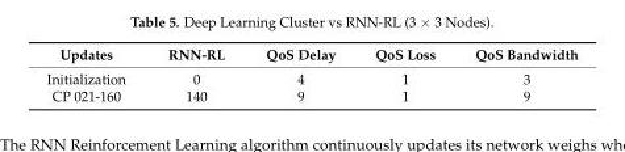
<table><thead><tr><td>Updates</td><td>RNN-RL</td><td>QoS Delay</td><td>QoS Loss</td><td>QoS Bandwidth</td></tr></thead><tbody><tr><td>Initialization</td><td>0</td><td>4</td><td>1</td><td>3</td></tr><tr><td>CP 021-160</td><td>140</td><td>9</td><td>1</td><td>9</td></tr></tbody></table>